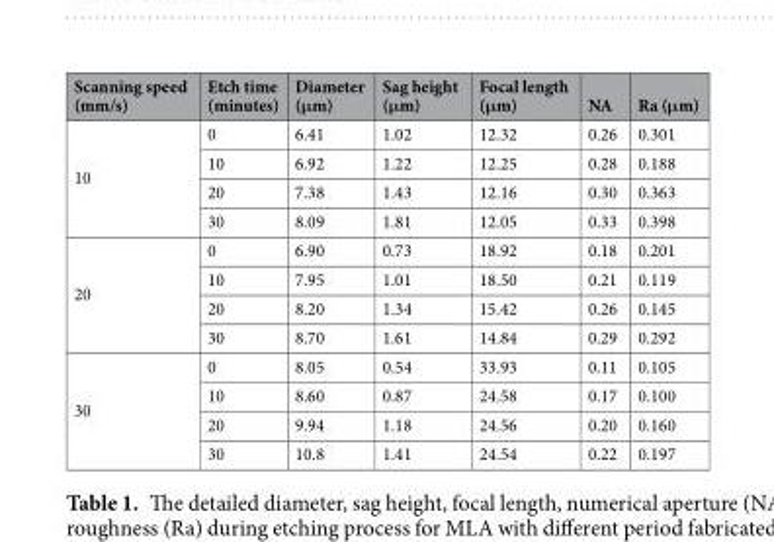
<table><thead><tr><td>Scanning speed (mm/s)</td><td>Etch time (minutes)</td><td>Diameter (μm)</td><td>Sag height (μm)</td><td>Focal length (μm)</td><td>NA</td><td>Ra (μm)</td></tr></thead><tbody><tr><td rowspan="4">10</td><td>0</td><td>6.41</td><td>1.02</td><td>12.32</td><td>0.26</td><td>0.301</td></tr><tr><td>10</td><td>6.92</td><td>1.22</td><td>12.25</td><td>0.28</td><td>0.188</td></tr><tr><td>20</td><td>7.38</td><td>1.43</td><td>12.16</td><td>0.30</td><td>0.363</td></tr><tr><td>30</td><td>8.09</td><td>1.81</td><td>12.05</td><td>0.33</td><td>0.398</td></tr><tr><td rowspan="4">20</td><td>0</td><td>6.90</td><td>0.73</td><td>18.92</td><td>0.18</td><td>0.201</td></tr><tr><td>10</td><td>7.95</td><td>1.01</td><td>18.50</td><td>0.21</td><td>0.119</td></tr><tr><td>20</td><td>8.20</td><td>1.34</td><td>15.42</td><td>0.26</td><td>0.145</td></tr><tr><td>30</td><td>8.70</td><td>1.61</td><td>14.84</td><td>0.29</td><td>0.292</td></tr><tr><td rowspan="4">30</td><td>0</td><td>8.05</td><td>0.54</td><td>33.93</td><td>0.11</td><td>0.105</td></tr><tr><td>10</td><td>8.60</td><td>0.87</td><td>24.58</td><td>0.17</td><td>0.100</td></tr><tr><td>20</td><td>9.94</td><td>1.18</td><td>24.56</td><td>0.20</td><td>0.160</td></tr><tr><td>30</td><td>10.8</td><td>1.41</td><td>24.54</td><td>0.22</td><td>0.197</td></tr></tbody></table>